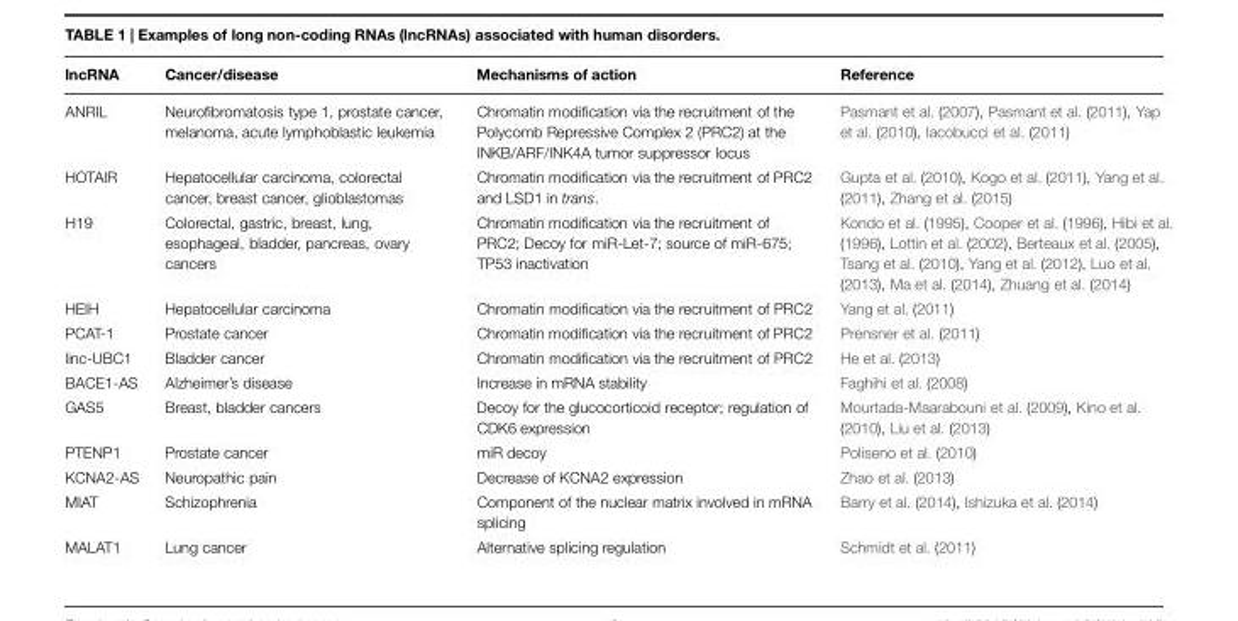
<table><thead><tr><td>lncRNA</td><td>Cancer/disease</td><td>Mechanisms of action</td><td>Reference</td></tr></thead><tbody><tr><td>ANRIL</td><td>Neurofibromatosis type 1, prostate cancer, melanoma, acute lymphoblastic leukemia</td><td>Chromatin modification via the recruitment of the Polycomb Repressive Complex 2 (PRC2) at the INKB/ARF/INK4A tumor suppressor locus</td><td>Pasmant et al. (2007), Pasmant et al. (2011), Yap et al. (2010), Iacobucci et al. (2011)</td></tr><tr><td>HOTAIR</td><td>Hepatocellular carcinoma, colorectal cancer, breast cancer, glioblastomas</td><td>Chromatin modification via the recruitment of PRC2 and LSD1 in trans.</td><td>Gupta et al. (2010), Kogo et al. (2011), Yang et al. (2011), Zhang et al. (2015)</td></tr><tr><td>H19</td><td>Colorectal, gastric, breast, lung, esophageal, bladder, pancreas, ovary cancers</td><td>Chromatin modification via the recruitment of PRC2; Decoy for miR-Let-7; source of miR-675; TP53 inactivation</td><td>Kondo et al. (1995), Cooper et al. (1996), Hibi et al. (1996), Lottin et al. (2002), Berteaux et al. (2005), Tsang et al. (2010), Yang et al. (2012), Luo et al. (2013), Ma et al. (2014), Zhuang et al. (2014)</td></tr><tr><td>HEIH</td><td>Hepatocellular carcinoma</td><td>Chromatin modification via the recruitment of PRC2</td><td>Yang et al. (2011)</td></tr><tr><td>PCAT-1</td><td>Prostate cancer</td><td>Chromatin modification via the recruitment of PRC2</td><td>Prensner et al. (2011)</td></tr><tr><td>linc-UBC1</td><td>Bladder cancer</td><td>Chromatin modification via the recruitment of PRC2</td><td>He et al. (2013)</td></tr><tr><td>BACE1-AS</td><td>Alzheimer’s disease</td><td>Increase in mRNA stability</td><td>Faghihi et al. (2008)</td></tr><tr><td>GAS5</td><td>Breast, bladder cancers</td><td>Decoy for the glucocorticoid receptor; regulation of CDK6 expression</td><td>Mourtada-Maarabouni et al. (2009), Kino et al. (2010), Liu et al. (2013)</td></tr><tr><td>PTENP1</td><td>Prostate cancer</td><td>miR decoy</td><td>Poliseno et al. (2010)</td></tr><tr><td>KCNA2-AS</td><td>Neuropathic pain</td><td>Decrease of KCNA2 expression</td><td>Zhao et al. (2013)</td></tr><tr><td>MIAT</td><td>Schizophrenia</td><td>Component of the nuclear matrix involved in mRNA splicing</td><td>Barry et al. (2014), Ishizuka et al. (2014)</td></tr><tr><td>MALAT1</td><td>Lung cancer</td><td>Alternative splicing regulation</td><td>Schmidt et al. (2011)</td></tr></tbody></table>